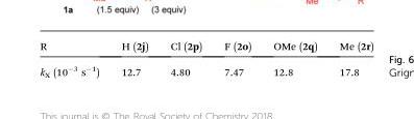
<table><thead><tr><td>R</td><td>H (2j)</td><td>Cl (2p)</td><td>F (2o)</td><td>OMe (2q)</td><td>Me (2r)</td></tr></thead><tbody><tr><td>k<sub>X</sub> (10<sup>–3</sup> s<sup>–1</sup>)</td><td>12.7</td><td>4.80</td><td>7.47</td><td>12.8</td><td>17.8</td></tr></tbody></table>